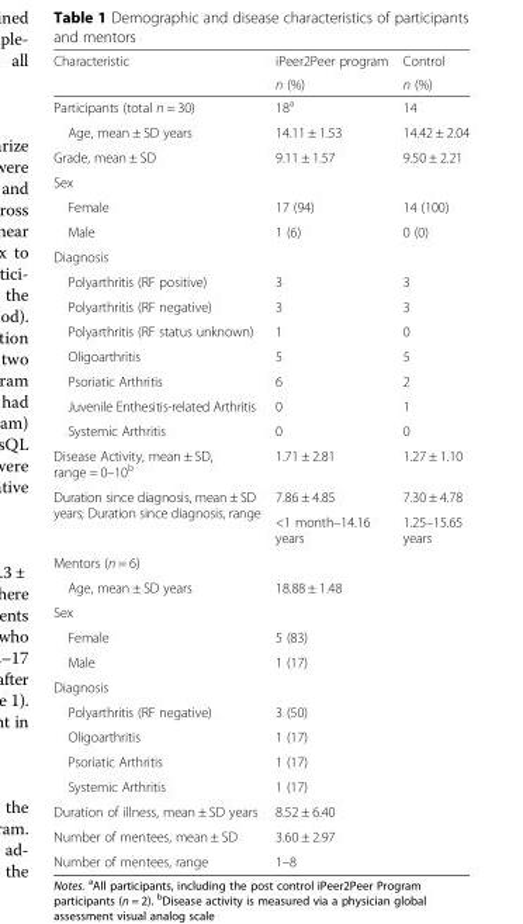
<table><thead><tr><td rowspan="2">Characteristic</td><td rowspan="2">iPeer2Peer program n (%)</td><td rowspan="2">Control n (%)</td></tr><tr></tr></thead><tbody><tr><td>Participants (total n = 30)</td><td>18<sup>a</sup></td><td>14</td></tr><tr><td>Age, mean ± SD years</td><td>14.11 ± 1.53</td><td>14.42 ± 2.04</td></tr><tr><td>Grade, mean ± SD</td><td>9.11 ± 1.57</td><td>9.50 ± 2.21</td></tr><tr><td colspan="3">Sex</td></tr><tr><td>Female</td><td>17 (94)</td><td>14 (100)</td></tr><tr><td>Male</td><td>1 (6)</td><td>0 (0)</td></tr><tr><td colspan="3">Diagnosis</td></tr><tr><td>Polyarthritis (RF positive)</td><td>3</td><td>3</td></tr><tr><td>Polyarthritis (RF negative)</td><td>3</td><td>3</td></tr><tr><td>Polyarthritis (RF status unknown)</td><td>1</td><td>0</td></tr><tr><td>Oligoarthritis</td><td>5</td><td>5</td></tr><tr><td>Psoriatic Arthritis</td><td>6</td><td>2</td></tr><tr><td>Juvenile Enthesitis-related Arthritis</td><td>0</td><td>1</td></tr><tr><td>Systemic Arthritis</td><td>0</td><td>0</td></tr><tr><td>Disease Activity, mean ± SD, range = 0–10<sup>b</sup></td><td>1.71 ± 2.81</td><td>1.27 ± 1.10</td></tr><tr><td rowspan="2">Duration since diagnosis, mean ± SD years; Duration since diagnosis, range</td><td>7.86 ± 4.85</td><td>7.30 ± 4.78</td></tr><tr><td>&lt;1 month–14.16 years</td><td>1.25–15.65 years</td></tr><tr><td colspan="3">Mentors (n = 6)</td></tr><tr><td>Age, mean ± SD years</td><td>18.88 ± 1.48</td><td></td></tr><tr><td colspan="3">Sex</td></tr><tr><td>Female</td><td>5 (83)</td><td></td></tr><tr><td>Male</td><td>1 (17)</td><td></td></tr><tr><td colspan="3">Diagnosis</td></tr><tr><td>Polyarthritis (RF negative)</td><td>3 (50)</td><td></td></tr><tr><td>Oligoarthritis</td><td>1 (17)</td><td></td></tr><tr><td>Psoriatic Arthritis</td><td>1 (17)</td><td></td></tr><tr><td>Systemic Arthritis</td><td>1 (17)</td><td></td></tr><tr><td>Duration of illness, mean ± SD years</td><td>8.52 ± 6.40</td><td></td></tr><tr><td>Number of mentees, mean ± SD</td><td>3.60 ± 2.97</td><td></td></tr><tr><td>Number of mentees, range</td><td>1–8</td><td></td></tr></tbody></table>